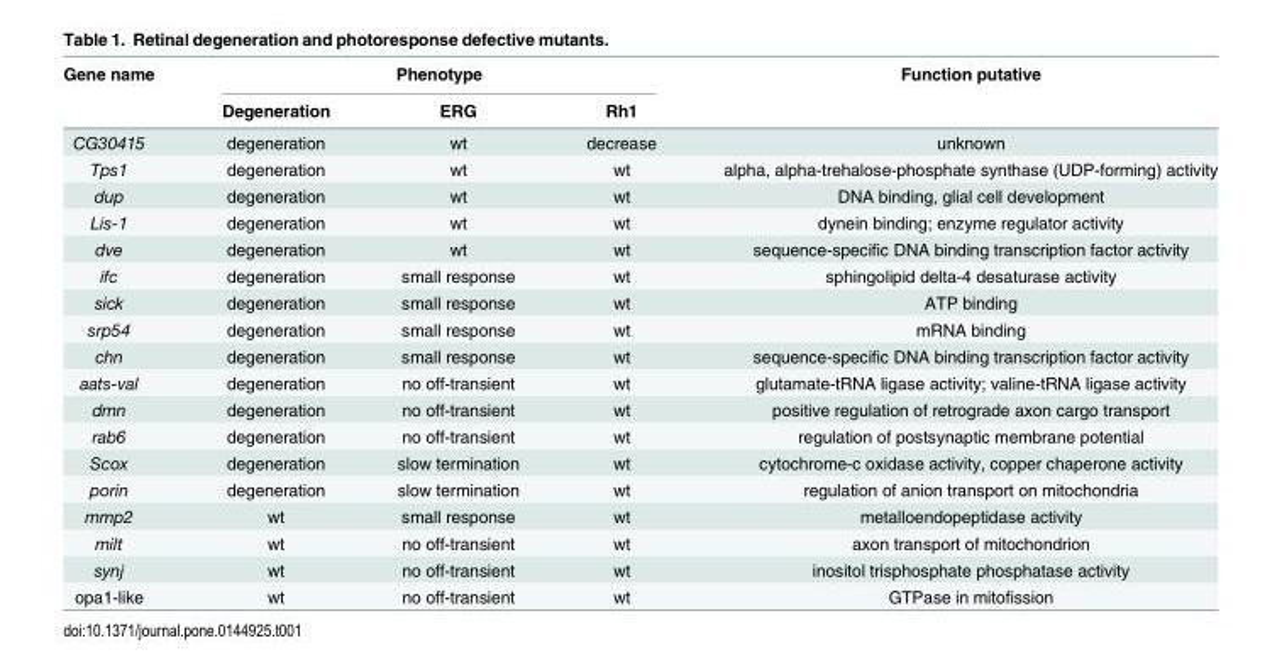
<table><thead><tr><td rowspan="2">Gene name</td><td colspan="3">Phenotype</td><td rowspan="2">Function putative</td></tr><tr><td>Degeneration</td><td>ERG</td><td>Rh1</td></tr></thead><tbody><tr><td>CG30415</td><td>degeneration</td><td>wt</td><td>decrease</td><td>unknown</td></tr><tr><td>Tps1</td><td>degeneration</td><td>wt</td><td>wt</td><td>alpha, alpha-trehalose-phosphate synthase (UDP-forming) activity</td></tr><tr><td>dup</td><td>degeneration</td><td>wt</td><td>wt</td><td>DNA binding, glial cell development</td></tr><tr><td>Lis-1</td><td>degeneration</td><td>wt</td><td>wt</td><td>dynein binding; enzyme regulator activity</td></tr><tr><td>dve</td><td>degeneration</td><td>wt</td><td>wt</td><td>sequence-specific DNA binding transcription factor activity</td></tr><tr><td>ifc</td><td>degeneration</td><td>small response</td><td>wt</td><td>sphingolipid delta-4 desaturase activity</td></tr><tr><td>sick</td><td>degeneration</td><td>small response</td><td>wt</td><td>ATP binding</td></tr><tr><td>srp54</td><td>degeneration</td><td>small response</td><td>wt</td><td>mRNA binding</td></tr><tr><td>chn</td><td>degeneration</td><td>small response</td><td>wt</td><td>sequence-specific DNA binding transcription factor activity</td></tr><tr><td>aats-val</td><td>degeneration</td><td>no off-transient</td><td>wt</td><td>glutamate-tRNA ligase activity; valine-tRNA ligase activity</td></tr><tr><td>dmn</td><td>degeneration</td><td>no off-transient</td><td>wt</td><td>positive regulation of retrograde axon cargo transport</td></tr><tr><td>rab6</td><td>degeneration</td><td>no off-transient</td><td>wt</td><td>regulation of postsynaptic membrane potential</td></tr><tr><td>Scox</td><td>degeneration</td><td>slow termination</td><td>wt</td><td>cytochrome-c oxidase activity, copper chaperone activity</td></tr><tr><td>porin</td><td>degeneration</td><td>slow termination</td><td>wt</td><td>regulation of anion transport on mitochondria</td></tr><tr><td>mmp2</td><td>wt</td><td>small response</td><td>wt</td><td>metalloendopeptidase activity</td></tr><tr><td>milt</td><td>wt</td><td>no off-transient</td><td>wt</td><td>axon transport of mitochondrion</td></tr><tr><td>synj</td><td>wt</td><td>no off-transient</td><td>wt</td><td>inositol trisphosphate phosphatase activity</td></tr><tr><td>opa1-like</td><td>wt</td><td>no off-transient</td><td>wt</td><td>GTPase in mitofission</td></tr></tbody></table>